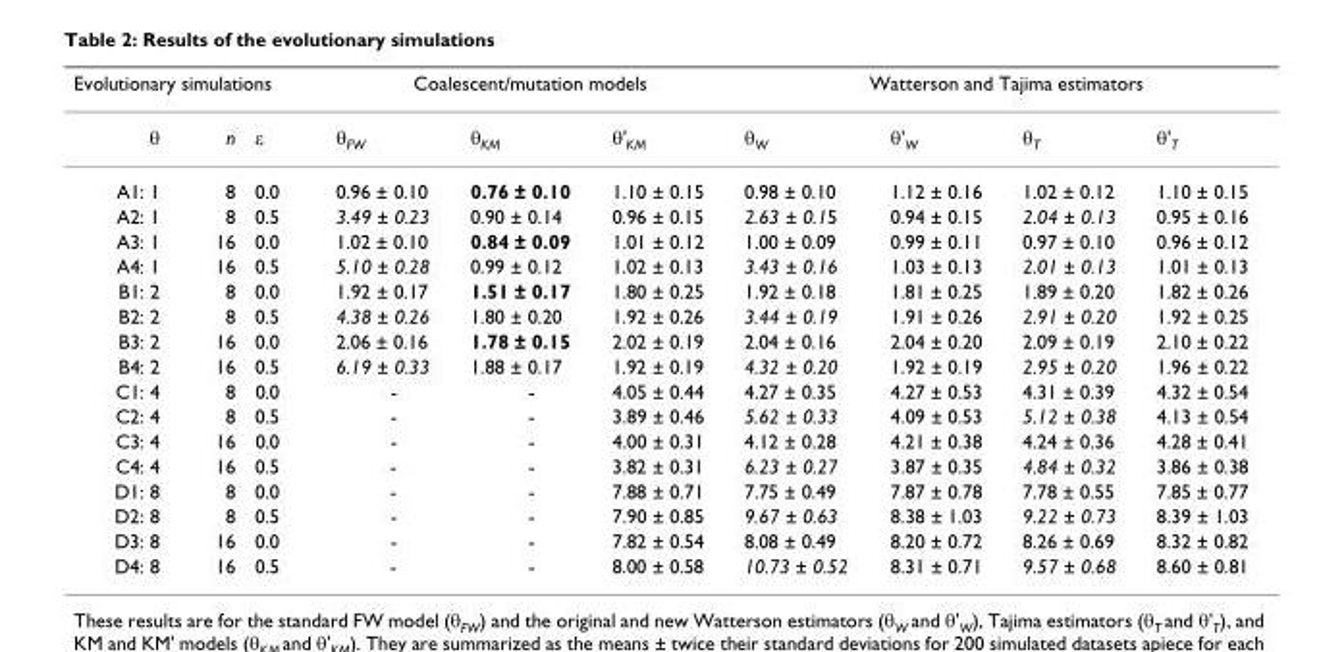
<table><thead><tr><td colspan="3">Evolutionary simulations</td><td colspan="3">Coalescent/mutation models</td><td colspan="4">Watterson and Tajima estimators</td></tr><tr><td>θ</td><td>n</td><td>ε</td><td>θ<sub>FW</sub></td><td>θ<sub>KM</sub></td><td>θ&#x27;<sub>KM</sub></td><td>θ<sub>W</sub></td><td>θ&#x27;<sub>W</sub></td><td>θ<sub>T</sub></td><td>θ&#x27;<sub>T</sub></td></tr></thead><tbody><tr><td>A1: 1</td><td>8</td><td>0.0</td><td>0.96 ± 0.10</td><td>0.76 ± 0.10</td><td>1.10 ± 0.15</td><td>0.98 ± 0.10</td><td>1.12 ± 0.16</td><td>1.02 ± 0.12</td><td>1.10 ± 0.15</td></tr><tr><td>A2: 1</td><td>8</td><td>0.5</td><td>3.49 ± 0.23</td><td>0.90 ± 0.14</td><td>0.96 ± 0.15</td><td>2.63 ± 0.15</td><td>0.94 ± 0.15</td><td>2.04 ± 0.13</td><td>0.95 ± 0.16</td></tr><tr><td>A3: 1</td><td>16</td><td>0.0</td><td>1.02 ± 0.10</td><td>0.84 ± 0.09</td><td>1.01 ± 0.12</td><td>1.00 ± 0.09</td><td>0.99 ± 0.11</td><td>0.97 ± 0.10</td><td>0.96 ± 0.12</td></tr><tr><td>A4: 1</td><td>16</td><td>0.5</td><td>5.10 ± 0.28</td><td>0.99 ± 0.12</td><td>1.02 ± 0.13</td><td>3.43 ± 0.16</td><td>1.03 ± 0.13</td><td>2.01 ± 0.13</td><td>1.01 ± 0.13</td></tr><tr><td>B1: 2</td><td>8</td><td>0.0</td><td>1.92 ± 0.17</td><td>1.51 ± 0.17</td><td>1.80 ± 0.25</td><td>1.92 ± 0.18</td><td>1.81 ± 0.25</td><td>1.89 ± 0.20</td><td>1.82 ± 0.26</td></tr><tr><td>B2: 2</td><td>8</td><td>0.5</td><td>4.38 ± 0.26</td><td>1.80 ± 0.20</td><td>1.92 ± 0.26</td><td>3.44 ± 0.19</td><td>1.91 ± 0.26</td><td>2.91 ± 0.20</td><td>1.92 ± 0.25</td></tr><tr><td>B3: 2</td><td>16</td><td>0.0</td><td>2.06 ± 0.16</td><td>1.78 ± 0.15</td><td>2.02 ± 0.19</td><td>2.04 ± 0.16</td><td>2.04 ± 0.20</td><td>2.09 ± 0.19</td><td>2.10 ± 0.22</td></tr><tr><td>B4: 2</td><td>16</td><td>0.5</td><td>6.19 ± 0.33</td><td>1.88 ± 0.17</td><td>1.92 ± 0.19</td><td>4.32 ± 0.20</td><td>1.92 ± 0.19</td><td>2.95 ± 0.20</td><td>1.96 ± 0.22</td></tr><tr><td>C1: 4</td><td>8</td><td>0.0</td><td>-</td><td>-</td><td>4.05 ± 0.44</td><td>4.27 ± 0.35</td><td>4.27 ± 0.53</td><td>4.31 ± 0.39</td><td>4.32 ± 0.54</td></tr><tr><td>C2: 4</td><td>8</td><td>0.5</td><td>-</td><td>-</td><td>3.89 ± 0.46</td><td>5.62 ± 0.33</td><td>4.09 ± 0.53</td><td>5.12 ± 0.38</td><td>4.13 ± 0.54</td></tr><tr><td>C3: 4</td><td>16</td><td>0.0</td><td>-</td><td>-</td><td>4.00 ± 0.31</td><td>4.12 ± 0.28</td><td>4.21 ± 0.38</td><td>4.24 ± 0.36</td><td>4.28 ± 0.41</td></tr><tr><td>C4: 4</td><td>16</td><td>0.5</td><td>-</td><td>-</td><td>3.82 ± 0.31</td><td>6.23 ± 0.27</td><td>3.87 ± 0.35</td><td>4.84 ± 0.32</td><td>3.86 ± 0.38</td></tr><tr><td>D1: 8</td><td>8</td><td>0.0</td><td>-</td><td>-</td><td>7.88 ± 0.71</td><td>7.75 ± 0.49</td><td>7.87 ± 0.78</td><td>7.78 ± 0.55</td><td>7.85 ± 0.77</td></tr><tr><td>D2: 8</td><td>8</td><td>0.5</td><td>-</td><td>-</td><td>7.90 ± 0.85</td><td>9.67 ± 0.63</td><td>8.38 ± 1.03</td><td>9.22 ± 0.73</td><td>8.39 ± 1.03</td></tr><tr><td>D3: 8</td><td>16</td><td>0.0</td><td>-</td><td>-</td><td>7.82 ± 0.54</td><td>8.08 ± 0.49</td><td>8.20 ± 0.72</td><td>8.26 ± 0.69</td><td>8.32 ± 0.82</td></tr><tr><td>D4: 8</td><td>16</td><td>0.5</td><td>-</td><td>-</td><td>8.00 ± 0.58</td><td>10.73 ± 0.52</td><td>8.31 ± 0.71</td><td>9.57 ± 0.68</td><td>8.60 ± 0.81</td></tr></tbody></table>